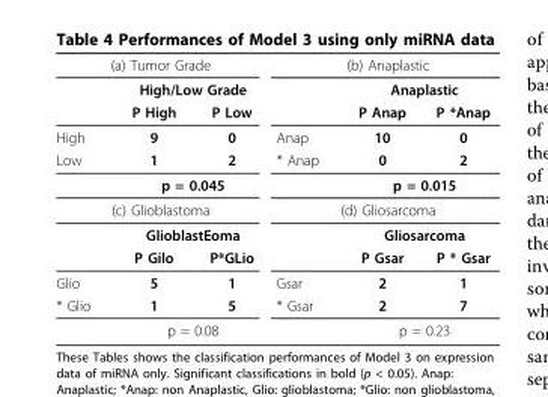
<table><tbody><tr><td colspan="3">(a) Tumor Grade</td><td colspan="3">(b) Anaplastic</td></tr><tr><td></td><td colspan="2">High/Low Grade</td><td></td><td colspan="2">Anaplastic</td></tr><tr><td></td><td>P High</td><td>P Low</td><td></td><td>P Anap</td><td>P *Anap</td></tr><tr><td>High</td><td>9</td><td>0</td><td>Anap</td><td>10</td><td>0</td></tr><tr><td rowspan="2">Low</td><td>1</td><td>2</td><td>* Anap</td><td>0</td><td>2</td></tr><tr><td colspan="2">p = 0.045</td><td></td><td colspan="2">p = 0.015</td></tr><tr><td colspan="3">(c) Glioblastoma</td><td colspan="3">(d) Gliosarcoma</td></tr><tr><td></td><td colspan="2">GlioblastEoma</td><td></td><td colspan="2">Gliosarcoma</td></tr><tr><td></td><td>P Gilo</td><td>P*GLio</td><td></td><td>P Gsar</td><td>P * Gsar</td></tr><tr><td>Glio</td><td>5</td><td>1</td><td>Gsar</td><td>2</td><td>1</td></tr><tr><td rowspan="2">* Glio</td><td>1</td><td>5</td><td>* Gsar</td><td>2</td><td>7</td></tr><tr><td colspan="2">p = 0.08</td><td></td><td colspan="2">p = 0.23</td></tr></tbody></table>